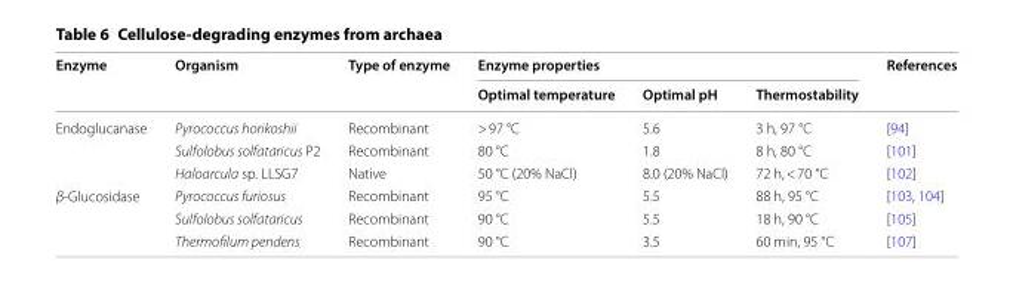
<table><thead><tr><td rowspan="2">Enzyme</td><td rowspan="2">Organism</td><td rowspan="2">Type of enzyme</td><td colspan="3">Enzyme properties</td><td rowspan="2">References</td></tr><tr><td>Optimal temperature</td><td>Optimal pH</td><td>Thermostability</td></tr></thead><tbody><tr><td rowspan="3">Endoglucanase</td><td>Pyrococcus horikoshii</td><td>Recombinant</td><td>&gt; 97 °C</td><td>5.6</td><td>3 h, 97 °C</td><td>[94]</td></tr><tr><td>Sulfolobus solfataricus P2</td><td>Recombinant</td><td>80 °C</td><td>1.8</td><td>8 h, 80 °C</td><td>[101]</td></tr><tr><td>Haloarcula sp. LLSG7</td><td>Native</td><td>50 °C (20% NaCl)</td><td>8.0 (20% NaCl)</td><td>72 h, &lt; 70 °C</td><td>[102]</td></tr><tr><td rowspan="3">β-Glucosidase</td><td>Pyrococcus furiosus</td><td>Recombinant</td><td>95 °C</td><td>5.5</td><td>88 h, 95 °C</td><td>[103, 104]</td></tr><tr><td>Sulfolobus solfataricus</td><td>Recombinant</td><td>90 °C</td><td>5.5</td><td>18 h, 90 °C</td><td>[105]</td></tr><tr><td>Thermofilum pendens</td><td>Recombinant</td><td>90 °C</td><td>3.5</td><td>60 min, 95 °C</td><td>[107]</td></tr></tbody></table>